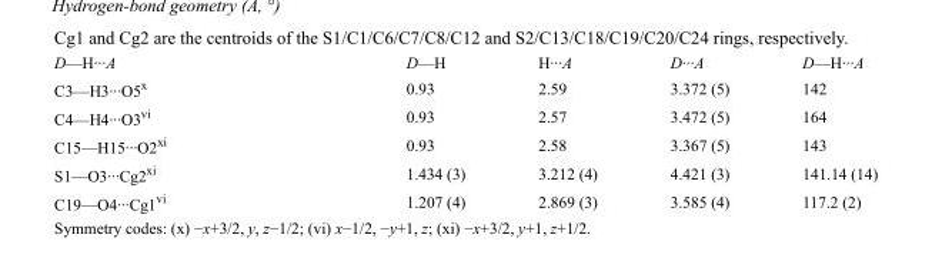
<table><tbody><tr><td>D—H···A</td><td>D—H</td><td>H···A</td><td>D···A</td><td>D—H···A</td></tr><tr><td>C3—H3···O5<sup>x</sup></td><td>0.93</td><td>2.59</td><td>3.372 (5)</td><td>142</td></tr><tr><td>C4—H4···O3<sup>vi</sup></td><td>0.93</td><td>2.57</td><td>3.472 (5)</td><td>164</td></tr><tr><td>C15—H15···O2<sup>xi</sup></td><td>0.93</td><td>2.58</td><td>3.367 (5)</td><td>143</td></tr><tr><td>S1—O3···Cg2<sup>xi</sup></td><td>1.434 (3)</td><td>3.212 (4)</td><td>4.421 (3)</td><td>141.14 (14)</td></tr><tr><td>C19—O4···Cg1<sup>vi</sup></td><td>1.207 (4)</td><td>2.869 (3)</td><td>3.585 (4)</td><td>117.2 (2)</td></tr></tbody></table>